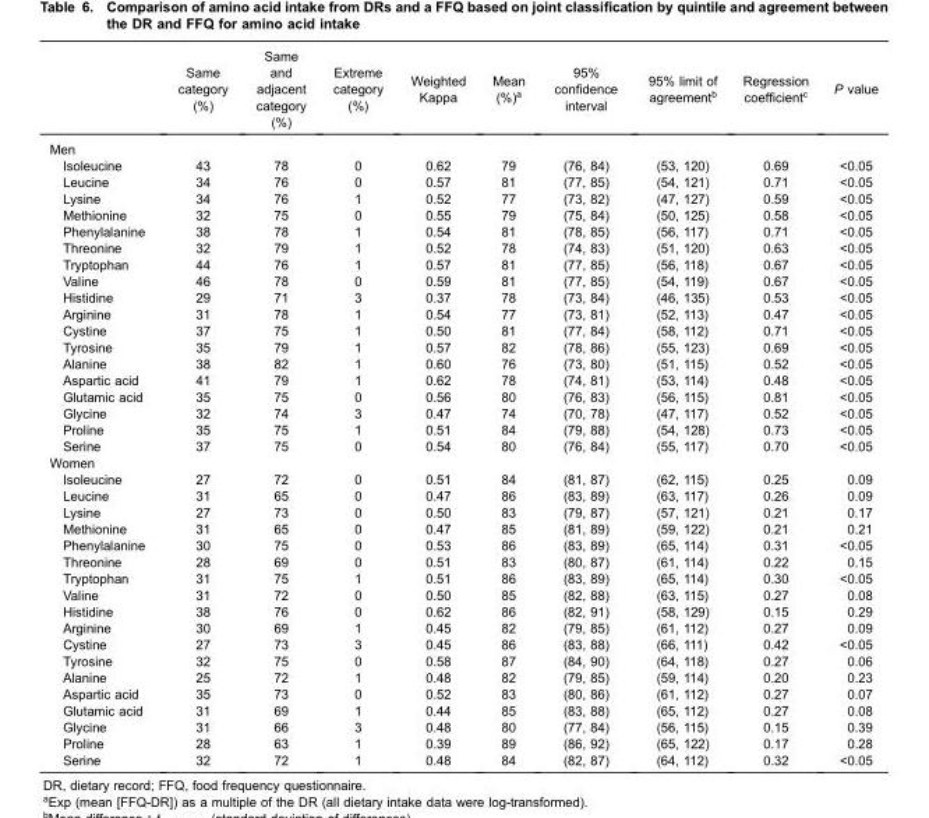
<table><thead><tr><td></td><td>Same category (%)</td><td>Same and adjacent category (%)</td><td>Extreme category (%)</td><td>Weighted Kappa</td><td>Mean (%)<sup>a</sup></td><td>95% confidence interval</td><td>95% limit of agreement<sup>b</sup></td><td>Regression coefficient<sup>c</sup></td><td>P value</td></tr></thead><tbody><tr><td colspan="10">Men</td></tr><tr><td>Isoleucine</td><td>43</td><td>78</td><td>0</td><td>0.62</td><td>79</td><td>(76, 84)</td><td>(53, 120)</td><td>0.69</td><td>&lt;0.05</td></tr><tr><td>Leucine</td><td>34</td><td>76</td><td>0</td><td>0.57</td><td>81</td><td>(77, 85)</td><td>(54, 121)</td><td>0.71</td><td>&lt;0.05</td></tr><tr><td>Lysine</td><td>34</td><td>76</td><td>1</td><td>0.52</td><td>77</td><td>(73, 82)</td><td>(47, 127)</td><td>0.59</td><td>&lt;0.05</td></tr><tr><td>Methionine</td><td>32</td><td>75</td><td>0</td><td>0.55</td><td>79</td><td>(75, 84)</td><td>(50, 125)</td><td>0.58</td><td>&lt;0.05</td></tr><tr><td>Phenylalanine</td><td>38</td><td>78</td><td>1</td><td>0.54</td><td>81</td><td>(78, 85)</td><td>(56, 117)</td><td>0.71</td><td>&lt;0.05</td></tr><tr><td>Threonine</td><td>32</td><td>79</td><td>1</td><td>0.52</td><td>78</td><td>(74, 83)</td><td>(51, 120)</td><td>0.63</td><td>&lt;0.05</td></tr><tr><td>Tryptophan</td><td>44</td><td>76</td><td>1</td><td>0.57</td><td>81</td><td>(77, 85)</td><td>(56, 118)</td><td>0.67</td><td>&lt;0.05</td></tr><tr><td>Valine</td><td>46</td><td>78</td><td>0</td><td>0.59</td><td>81</td><td>(77, 85)</td><td>(54, 119)</td><td>0.67</td><td>&lt;0.05</td></tr><tr><td>Histidine</td><td>29</td><td>71</td><td>3</td><td>0.37</td><td>78</td><td>(73, 84)</td><td>(46, 135)</td><td>0.53</td><td>&lt;0.05</td></tr><tr><td>Arginine</td><td>31</td><td>78</td><td>1</td><td>0.54</td><td>77</td><td>(73, 81)</td><td>(52, 113)</td><td>0.47</td><td>&lt;0.05</td></tr><tr><td>Cystine</td><td>37</td><td>75</td><td>1</td><td>0.50</td><td>81</td><td>(77, 84)</td><td>(58, 112)</td><td>0.71</td><td>&lt;0.05</td></tr><tr><td>Tyrosine</td><td>35</td><td>79</td><td>1</td><td>0.57</td><td>82</td><td>(78, 86)</td><td>(55, 123)</td><td>0.69</td><td>&lt;0.05</td></tr><tr><td>Alanine</td><td>38</td><td>82</td><td>1</td><td>0.60</td><td>76</td><td>(73, 80)</td><td>(51, 115)</td><td>0.52</td><td>&lt;0.05</td></tr><tr><td>Aspartic acid</td><td>41</td><td>79</td><td>1</td><td>0.62</td><td>78</td><td>(74, 81)</td><td>(53, 114)</td><td>0.48</td><td>&lt;0.05</td></tr><tr><td>Glutamic acid</td><td>35</td><td>75</td><td>0</td><td>0.56</td><td>80</td><td>(76, 83)</td><td>(56, 115)</td><td>0.81</td><td>&lt;0.05</td></tr><tr><td>Glycine</td><td>32</td><td>74</td><td>3</td><td>0.47</td><td>74</td><td>(70, 78)</td><td>(47, 117)</td><td>0.52</td><td>&lt;0.05</td></tr><tr><td>Proline</td><td>35</td><td>75</td><td>1</td><td>0.51</td><td>84</td><td>(79, 88)</td><td>(54, 128)</td><td>0.73</td><td>&lt;0.05</td></tr><tr><td>Serine</td><td>37</td><td>75</td><td>0</td><td>0.54</td><td>80</td><td>(76, 84)</td><td>(55, 117)</td><td>0.70</td><td>&lt;0.05</td></tr><tr><td colspan="10">Women</td></tr><tr><td>Isoleucine</td><td>27</td><td>72</td><td>0</td><td>0.51</td><td>84</td><td>(81, 87)</td><td>(62, 115)</td><td>0.25</td><td>0.09</td></tr><tr><td>Leucine</td><td>31</td><td>65</td><td>0</td><td>0.47</td><td>86</td><td>(83, 89)</td><td>(63, 117)</td><td>0.26</td><td>0.09</td></tr><tr><td>Lysine</td><td>27</td><td>73</td><td>0</td><td>0.50</td><td>83</td><td>(79, 87)</td><td>(57, 121)</td><td>0.21</td><td>0.17</td></tr><tr><td>Methionine</td><td>31</td><td>65</td><td>0</td><td>0.47</td><td>85</td><td>(81, 89)</td><td>(59, 122)</td><td>0.21</td><td>0.21</td></tr><tr><td>Phenylalanine</td><td>30</td><td>75</td><td>0</td><td>0.53</td><td>86</td><td>(83, 89)</td><td>(65, 114)</td><td>0.31</td><td>&lt;0.05</td></tr><tr><td>Threonine</td><td>28</td><td>69</td><td>0</td><td>0.51</td><td>83</td><td>(80, 87)</td><td>(61, 114)</td><td>0.22</td><td>0.15</td></tr><tr><td>Tryptophan</td><td>31</td><td>75</td><td>1</td><td>0.51</td><td>86</td><td>(83, 89)</td><td>(65, 114)</td><td>0.30</td><td>&lt;0.05</td></tr><tr><td>Valine</td><td>31</td><td>72</td><td>0</td><td>0.50</td><td>85</td><td>(82, 88)</td><td>(63, 115)</td><td>0.27</td><td>0.08</td></tr><tr><td>Histidine</td><td>38</td><td>76</td><td>0</td><td>0.62</td><td>86</td><td>(82, 91)</td><td>(58, 129)</td><td>0.15</td><td>0.29</td></tr><tr><td>Arginine</td><td>30</td><td>69</td><td>1</td><td>0.45</td><td>82</td><td>(79, 85)</td><td>(61, 112)</td><td>0.27</td><td>0.09</td></tr><tr><td>Cystine</td><td>27</td><td>73</td><td>3</td><td>0.45</td><td>86</td><td>(83, 88)</td><td>(66, 111)</td><td>0.42</td><td>&lt;0.05</td></tr><tr><td>Tyrosine</td><td>32</td><td>75</td><td>0</td><td>0.58</td><td>87</td><td>(84, 90)</td><td>(64, 118)</td><td>0.27</td><td>0.06</td></tr><tr><td>Alanine</td><td>25</td><td>72</td><td>1</td><td>0.48</td><td>82</td><td>(79, 85)</td><td>(59, 114)</td><td>0.20</td><td>0.23</td></tr><tr><td>Aspartic acid</td><td>35</td><td>73</td><td>0</td><td>0.52</td><td>83</td><td>(80, 86)</td><td>(61, 112)</td><td>0.27</td><td>0.07</td></tr><tr><td>Glutamic acid</td><td>31</td><td>69</td><td>1</td><td>0.44</td><td>85</td><td>(83, 88)</td><td>(65, 112)</td><td>0.27</td><td>0.08</td></tr><tr><td>Glycine</td><td>31</td><td>66</td><td>3</td><td>0.48</td><td>80</td><td>(77, 84)</td><td>(56, 115)</td><td>0.15</td><td>0.39</td></tr><tr><td>Proline</td><td>28</td><td>63</td><td>1</td><td>0.39</td><td>89</td><td>(86, 92)</td><td>(65, 122)</td><td>0.17</td><td>0.28</td></tr><tr><td>Serine</td><td>32</td><td>72</td><td>1</td><td>0.48</td><td>84</td><td>(82, 87)</td><td>(64, 112)</td><td>0.32</td><td>&lt;0.05</td></tr></tbody></table>